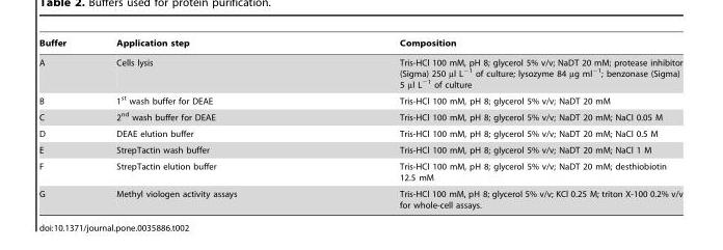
<table><thead><tr><td>Buffer</td><td>Application step</td><td>Composition</td></tr></thead><tbody><tr><td>A</td><td>Cells lysis</td><td>Tris-HCl 100 mM, pH 8; glycerol 5% v/v; NaDT 20 mM; protease inhibitor (Sigma) 250 µl L<sup>−1</sup> of culture; lysozyme 84 µg ml<sup>−1</sup>; benzonase (Sigma) 5 µl L<sup>−1</sup> of culture</td></tr><tr><td>B</td><td>1<sup>st</sup> wash buffer for DEAE</td><td>Tris-HCl 100 mM, pH 8; glycerol 5% v/v; NaDT 20 mM</td></tr><tr><td>C</td><td>2<sup>nd</sup> wash buffer for DEAE</td><td>Tris-HCl 100 mM, pH 8; glycerol 5% v/v; NaDT 20 mM; NaCl 0.05 M</td></tr><tr><td>D</td><td>DEAE elution buffer</td><td>Tris-HCl 100 mM, pH 8; glycerol 5% v/v; NaDT 20 mM; NaCl 0.5 M</td></tr><tr><td>E</td><td>StrepTactin wash buffer</td><td>Tris-HCl 100 mM, pH 8; glycerol 5% v/v; NaDT 20 mM; NaCl 1 M</td></tr><tr><td>F</td><td>StrepTactin elution buffer</td><td>Tris-HCl 100 mM, pH 8; glycerol 5% v/v; NaDT 20 mM; desthiobiotin 12.5 mM</td></tr><tr><td>G</td><td>Methyl viologen activity assays</td><td>Tris-HCl 100 mM, pH 8; glycerol 5% v/v; KCl 0.25 M; triton X-100 0.2% v/v for whole-cell assays.</td></tr></tbody></table>